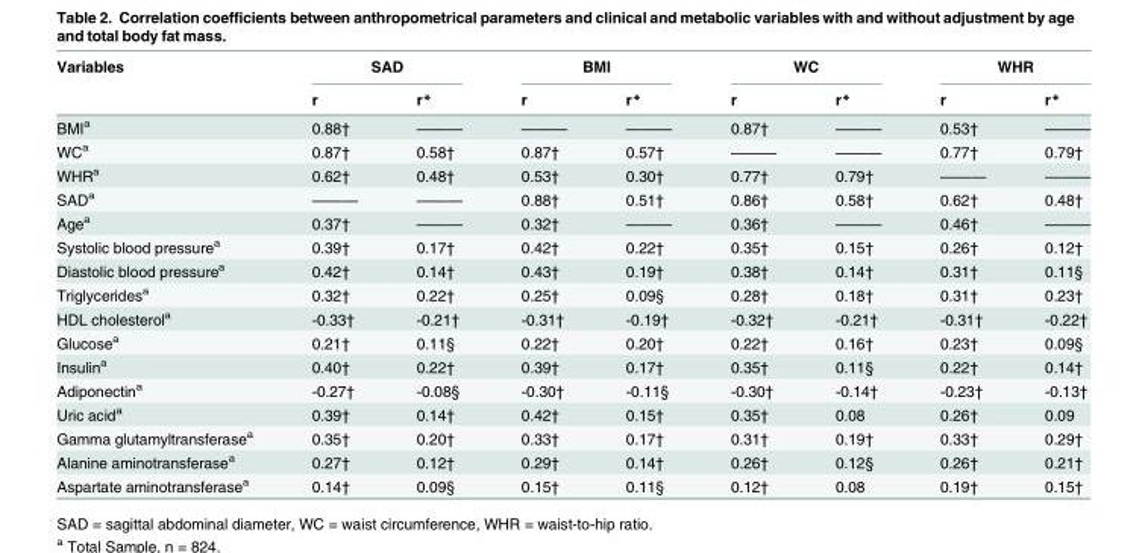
<table><thead><tr><td rowspan="2">Variables</td><td colspan="2">SAD</td><td colspan="2">BMI</td><td colspan="2">WC</td><td colspan="2">WHR</td></tr><tr><td>r</td><td>r*</td><td>r</td><td>r*</td><td>r</td><td>r*</td><td>r</td><td>r*</td></tr></thead><tbody><tr><td>BMI<sup>a</sup></td><td>0.88†</td><td>———</td><td>———</td><td>———</td><td>0.87†</td><td>———</td><td>0.53†</td><td>———</td></tr><tr><td>WC<sup>a</sup></td><td>0.87†</td><td>0.58†</td><td>0.87†</td><td>0.57†</td><td>———</td><td>———</td><td>0.77†</td><td>0.79†</td></tr><tr><td>WHR<sup>a</sup></td><td>0.62†</td><td>0.48†</td><td>0.53†</td><td>0.30†</td><td>0.77†</td><td>0.79†</td><td>———</td><td>———</td></tr><tr><td>SAD<sup>a</sup></td><td>———</td><td>———</td><td>0.88†</td><td>0.51†</td><td>0.86†</td><td>0.58†</td><td>0.62†</td><td>0.48†</td></tr><tr><td>Age<sup>a</sup></td><td>0.37†</td><td>———</td><td>0.32†</td><td>———</td><td>0.36†</td><td>———</td><td>0.46†</td><td>———</td></tr><tr><td>Systolic blood pressure<sup>a</sup></td><td>0.39†</td><td>0.17†</td><td>0.42†</td><td>0.22†</td><td>0.35†</td><td>0.15†</td><td>0.26†</td><td>0.12†</td></tr><tr><td>Diastolic blood pressure<sup>a</sup></td><td>0.42†</td><td>0.14†</td><td>0.43†</td><td>0.19†</td><td>0.38†</td><td>0.14†</td><td>0.31†</td><td>0.11§</td></tr><tr><td>Triglycerides<sup>a</sup></td><td>0.32†</td><td>0.22†</td><td>0.25†</td><td>0.09§</td><td>0.28†</td><td>0.18†</td><td>0.31†</td><td>0.23†</td></tr><tr><td>HDL cholesterol<sup>a</sup></td><td>-0.33†</td><td>-0.21†</td><td>-0.31†</td><td>-0.19†</td><td>-0.32†</td><td>-0.21†</td><td>-0.31†</td><td>-0.22†</td></tr><tr><td>Glucose<sup>a</sup></td><td>0.21†</td><td>0.11§</td><td>0.22†</td><td>0.20†</td><td>0.22†</td><td>0.16†</td><td>0.23†</td><td>0.09§</td></tr><tr><td>Insulin<sup>a</sup></td><td>0.40†</td><td>0.22†</td><td>0.39†</td><td>0.17†</td><td>0.35†</td><td>0.11§</td><td>0.22†</td><td>0.14†</td></tr><tr><td>Adiponectin<sup>a</sup></td><td>-0.27†</td><td>-0.08§</td><td>-0.30†</td><td>-0.11§</td><td>-0.30†</td><td>-0.14†</td><td>-0.23†</td><td>-0.13†</td></tr><tr><td>Uric acid<sup>a</sup></td><td>0.39†</td><td>0.14†</td><td>0.42†</td><td>0.15†</td><td>0.35†</td><td>0.08</td><td>0.26†</td><td>0.09</td></tr><tr><td>Gamma glutamyltransferase<sup>a</sup></td><td>0.35†</td><td>0.20†</td><td>0.33†</td><td>0.17†</td><td>0.31†</td><td>0.19†</td><td>0.33†</td><td>0.29†</td></tr><tr><td>Alanine aminotransferase<sup>a</sup></td><td>0.27†</td><td>0.12†</td><td>0.29†</td><td>0.14†</td><td>0.26†</td><td>0.12§</td><td>0.26†</td><td>0.21†</td></tr><tr><td>Aspartate aminotransferase<sup>a</sup></td><td>0.14†</td><td>0.09§</td><td>0.15†</td><td>0.11§</td><td>0.12†</td><td>0.08</td><td>0.19†</td><td>0.15†</td></tr></tbody></table>